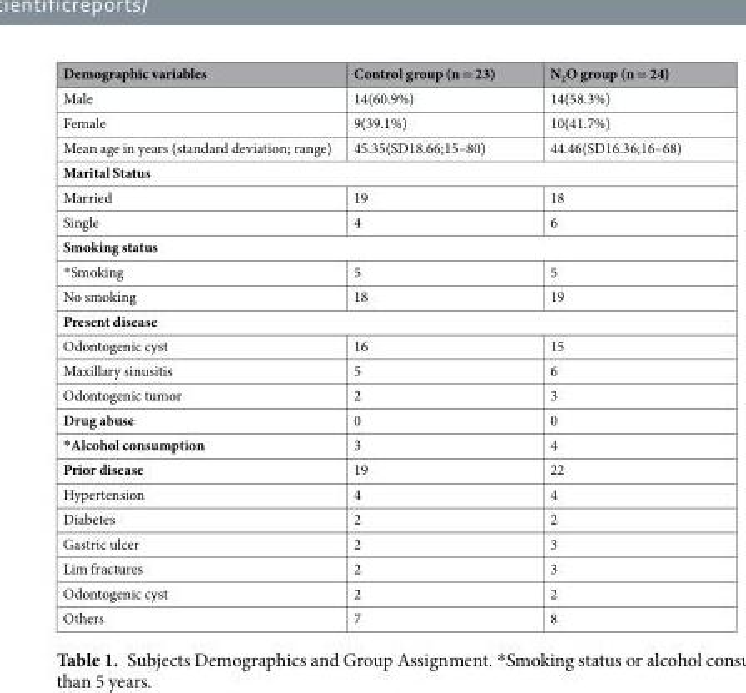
<table><thead><tr><td>Demographic variables</td><td>Control group (n = 23)</td><td>N<sub>2</sub>O group (n = 24)</td></tr></thead><tbody><tr><td>Male</td><td>14(60.9%)</td><td>14(58.3%)</td></tr><tr><td>Female</td><td>9(39.1%)</td><td>10(41.7%)</td></tr><tr><td>Mean age in years (standard deviation; range)</td><td>45.35(SD18.66;15–80)</td><td>44.46(SD16.36;16–68)</td></tr><tr><td colspan="3">Marital Status</td></tr><tr><td>Married</td><td>19</td><td>18</td></tr><tr><td>Single</td><td>4</td><td>6</td></tr><tr><td colspan="3">Smoking status</td></tr><tr><td>*Smoking</td><td>5</td><td>5</td></tr><tr><td>No smoking</td><td>18</td><td>19</td></tr><tr><td colspan="3">Present disease</td></tr><tr><td>Odontogenic cyst</td><td>16</td><td>15</td></tr><tr><td>Maxillary sinusitis</td><td>5</td><td>6</td></tr><tr><td>Odontogenic tumor</td><td>2</td><td>3</td></tr><tr><td>Drug abuse</td><td>0</td><td>0</td></tr><tr><td>*Alcohol consumption</td><td>3</td><td>4</td></tr><tr><td>Prior disease</td><td>19</td><td>22</td></tr><tr><td>Hypertension</td><td>4</td><td>4</td></tr><tr><td>Diabetes</td><td>2</td><td>2</td></tr><tr><td>Gastric ulcer</td><td>2</td><td>3</td></tr><tr><td>Lim fractures</td><td>2</td><td>3</td></tr><tr><td>Odontogenic cyst</td><td>2</td><td>2</td></tr><tr><td>Others</td><td>7</td><td>8</td></tr></tbody></table>